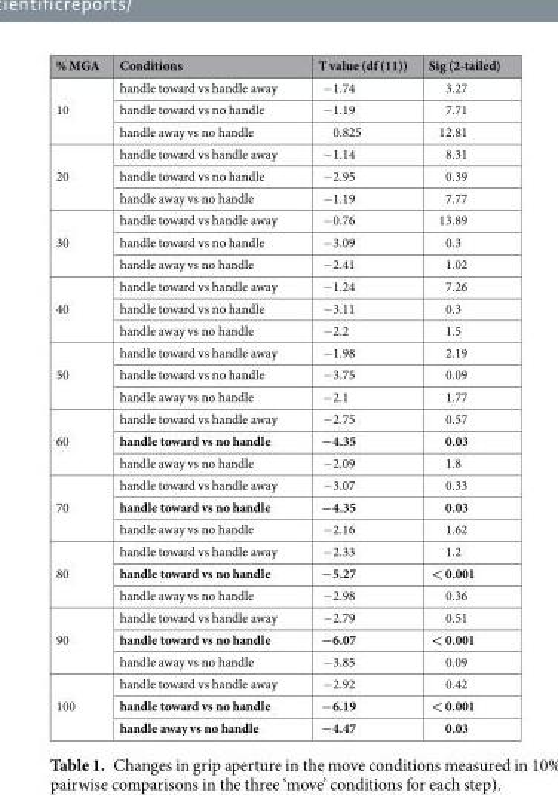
<table><thead><tr><td>% MGA</td><td>Conditions</td><td>T value (df (11))</td><td>Sig (2-tailed)</td></tr></thead><tbody><tr><td rowspan="3">10</td><td>handle toward vs handle away</td><td>−1.74</td><td>3.27</td></tr><tr><td>handle toward vs no handle</td><td>−1.19</td><td>7.71</td></tr><tr><td>handle away vs no handle</td><td>0.825</td><td>12.81</td></tr><tr><td rowspan="3">20</td><td>handle toward vs handle away</td><td>−1.14</td><td>8.31</td></tr><tr><td>handle toward vs no handle</td><td>−2.95</td><td>0.39</td></tr><tr><td>handle away vs no handle</td><td>−1.19</td><td>7.77</td></tr><tr><td rowspan="3">30</td><td>handle toward vs handle away</td><td>−0.76</td><td>13.89</td></tr><tr><td>handle toward vs no handle</td><td>−3.09</td><td>0.3</td></tr><tr><td>handle away vs no handle</td><td>−2.41</td><td>1.02</td></tr><tr><td rowspan="3">40</td><td>handle toward vs handle away</td><td>−1.24</td><td>7.26</td></tr><tr><td>handle toward vs no handle</td><td>−3.11</td><td>0.3</td></tr><tr><td>handle away vs no handle</td><td>−2.2</td><td>1.5</td></tr><tr><td rowspan="3">50</td><td>handle toward vs handle away</td><td>−1.98</td><td>2.19</td></tr><tr><td>handle toward vs no handle</td><td>−3.75</td><td>0.09</td></tr><tr><td>handle away vs no handle</td><td>−2.1</td><td>1.77</td></tr><tr><td rowspan="3">60</td><td>handle toward vs handle away</td><td>−2.75</td><td>0.57</td></tr><tr><td>handle toward vs no handle</td><td>−4.35</td><td>0.03</td></tr><tr><td>handle away vs no handle</td><td>−2.09</td><td>1.8</td></tr><tr><td rowspan="3">70</td><td>handle toward vs handle away</td><td>−3.07</td><td>0.33</td></tr><tr><td>handle toward vs no handle</td><td>−4.35</td><td>0.03</td></tr><tr><td>handle away vs no handle</td><td>−2.16</td><td>1.62</td></tr><tr><td rowspan="3">80</td><td>handle toward vs handle away</td><td>−2.33</td><td>1.2</td></tr><tr><td>handle toward vs no handle</td><td>−5.27</td><td>&lt; 0.001</td></tr><tr><td>handle away vs no handle</td><td>−2.98</td><td>0.36</td></tr><tr><td rowspan="3">90</td><td>handle toward vs handle away</td><td>−2.79</td><td>0.51</td></tr><tr><td>handle toward vs no handle</td><td>−6.07</td><td>&lt; 0.001</td></tr><tr><td>handle away vs no handle</td><td>−3.85</td><td>0.09</td></tr><tr><td rowspan="3">100</td><td>handle toward vs handle away</td><td>−2.92</td><td>0.42</td></tr><tr><td>handle toward vs no handle</td><td>−6.19</td><td>&lt; 0.001</td></tr><tr><td>handle away vs no handle</td><td>−4.47</td><td>0.03</td></tr></tbody></table>